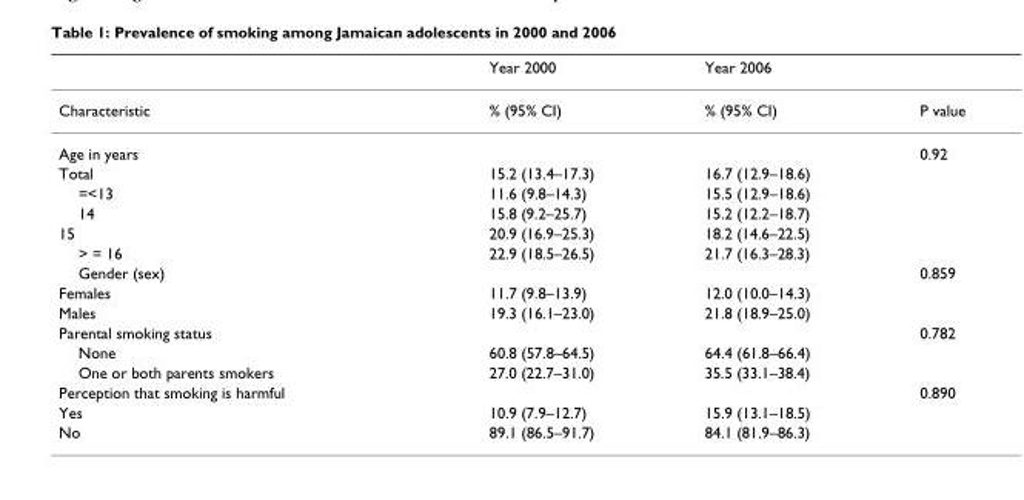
<table><thead><tr><td></td><td>Year 2000</td><td>Year 2006</td><td></td></tr></thead><tbody><tr><td>Characteristic</td><td>% (95% CI)</td><td>% (95% CI)</td><td>P value</td></tr><tr><td>Age in years</td><td></td><td></td><td>0.92</td></tr><tr><td>Total</td><td>15.2 (13.4–17.3)</td><td>16.7 (12.9–18.6)</td><td></td></tr><tr><td>=&lt;13</td><td>11.6 (9.8–14.3)</td><td>15.5 (12.9–18.6)</td><td></td></tr><tr><td>14</td><td>15.8 (9.2–25.7)</td><td>15.2 (12.2–18.7)</td><td></td></tr><tr><td>15</td><td>20.9 (16.9–25.3)</td><td>18.2 (14.6–22.5)</td><td></td></tr><tr><td>&gt; = 16</td><td>22.9 (18.5–26.5)</td><td>21.7 (16.3–28.3)</td><td></td></tr><tr><td>Gender (sex)</td><td></td><td></td><td>0.859</td></tr><tr><td>Females</td><td>11.7 (9.8–13.9)</td><td>12.0 (10.0–14.3)</td><td></td></tr><tr><td>Males</td><td>19.3 (16.1–23.0)</td><td>21.8 (18.9–25.0)</td><td></td></tr><tr><td>Parental smoking status</td><td></td><td></td><td>0.782</td></tr><tr><td>None</td><td>60.8 (57.8–64.5)</td><td>64.4 (61.8–66.4)</td><td></td></tr><tr><td>One or both parents smokers</td><td>27.0 (22.7–31.0)</td><td>35.5 (33.1–38.4)</td><td></td></tr><tr><td>Perception that smoking is harmful</td><td></td><td></td><td>0.890</td></tr><tr><td>Yes</td><td>10.9 (7.9–12.7)</td><td>15.9 (13.1–18.5)</td><td></td></tr><tr><td>No</td><td>89.1 (86.5–91.7)</td><td>84.1 (81.9–86.3)</td><td></td></tr></tbody></table>